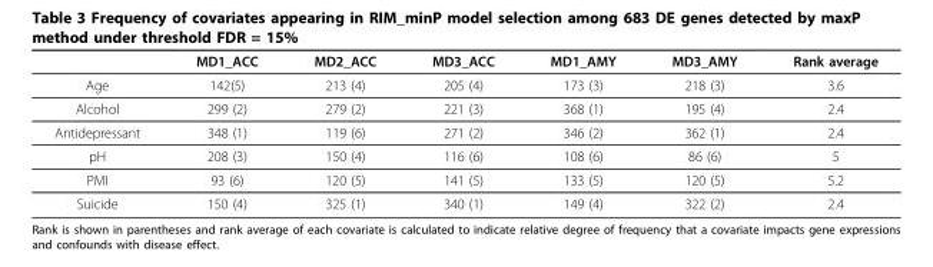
<table><thead><tr><td></td><td>MD1_ACC</td><td>MD2_ACC</td><td>MD3_ACC</td><td>MD1_AMY</td><td>MD3_AMY</td><td>Rank average</td></tr></thead><tbody><tr><td>Age</td><td>142(5)</td><td>213 (4)</td><td>205 (4)</td><td>173 (3)</td><td>218 (3)</td><td>3.6</td></tr><tr><td>Alcohol</td><td>299 (2)</td><td>279 (2)</td><td>221 (3)</td><td>368 (1)</td><td>195 (4)</td><td>2.4</td></tr><tr><td>Antidepressant</td><td>348 (1)</td><td>119 (6)</td><td>271 (2)</td><td>346 (2)</td><td>362 (1)</td><td>2.4</td></tr><tr><td>pH</td><td>208 (3)</td><td>150 (4)</td><td>116 (6)</td><td>108 (6)</td><td>86 (6)</td><td>5</td></tr><tr><td>PMI</td><td>93 (6)</td><td>120 (5)</td><td>141 (5)</td><td>133 (5)</td><td>120 (5)</td><td>5.2</td></tr><tr><td>Suicide</td><td>150 (4)</td><td>325 (1)</td><td>340 (1)</td><td>149 (4)</td><td>322 (2)</td><td>2.4</td></tr></tbody></table>